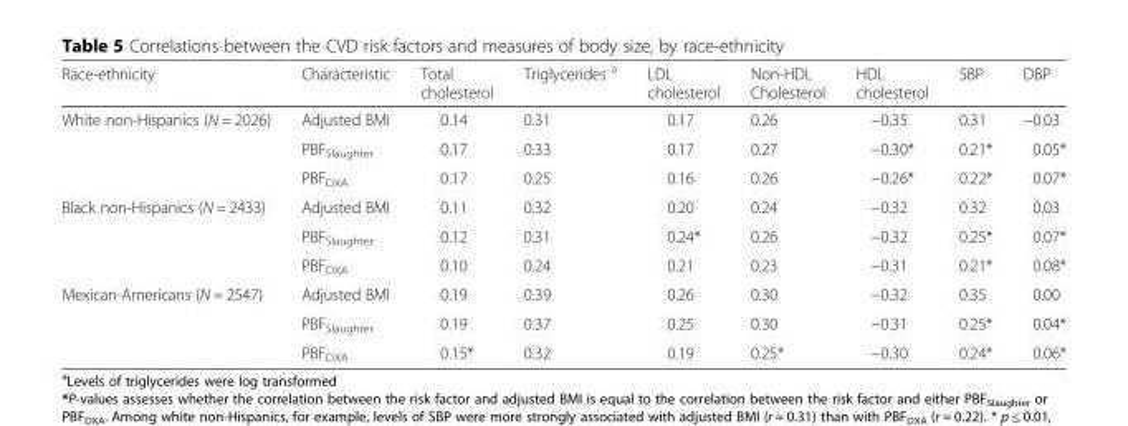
<table><thead><tr><td>Race-ethnicity</td><td>Characteristic</td><td>Total cholesterol</td><td>Triglycerides <sup>a</sup></td><td>LDL cholesterol</td><td>Non-HDL Cholesterol</td><td>HDL cholesterol</td><td>SBP</td><td>DBP</td></tr></thead><tbody><tr><td rowspan="3">White non-Hispanics (N = 2026)</td><td>Adjusted BMI</td><td>0.14</td><td>0.31</td><td>0.17</td><td>0.26</td><td>−0.35</td><td>0.31</td><td>−0.03</td></tr><tr><td>PBF<sub>Slaughter</sub></td><td>0.17</td><td>0.33</td><td>0.17</td><td>0.27</td><td>−0.30*</td><td>0.21*</td><td>0.05*</td></tr><tr><td>PBF<sub>DXA</sub></td><td>0.17</td><td>0.25</td><td>0.16</td><td>0.26</td><td>−0.26*</td><td>0.22*</td><td>0.07*</td></tr><tr><td rowspan="3">Black non-Hispanics (N = 2433)</td><td>Adjusted BMI</td><td>0.11</td><td>0.32</td><td>0.20</td><td>0.24</td><td>−0.32</td><td>0.32</td><td>0.03</td></tr><tr><td>PBF<sub>Slaughter</sub></td><td>0.12</td><td>0.31</td><td>0.24*</td><td>0.26</td><td>−0.32</td><td>0.25*</td><td>0.07*</td></tr><tr><td>PBF<sub>DXA</sub></td><td>0.10</td><td>0.24</td><td>0.21</td><td>0.23</td><td>−0.31</td><td>0.21*</td><td>0.08*</td></tr><tr><td rowspan="3">Mexican-Americans (N = 2547)</td><td>Adjusted BMI</td><td>0.19</td><td>0.39</td><td>0.26</td><td>0.30</td><td>−0.32</td><td>0.35</td><td>0.00</td></tr><tr><td>PBF<sub>Slaughter</sub></td><td>0.19</td><td>0.37</td><td>0.25</td><td>0.30</td><td>−0.31</td><td>0.25*</td><td>0.04*</td></tr><tr><td>PBF<sub>DXA</sub></td><td>0.15*</td><td>0.32</td><td>0.19</td><td>0.25*</td><td>−0.30</td><td>0.24*</td><td>0.06*</td></tr></tbody></table>